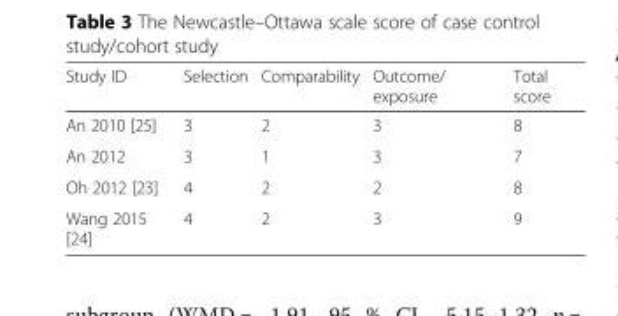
<table><thead><tr><td>Study ID</td><td>Selection</td><td>Comparability</td><td>Outcome/ exposure</td><td>Total score</td></tr></thead><tbody><tr><td>An 2010 [25]</td><td>3</td><td>2</td><td>3</td><td>8</td></tr><tr><td>An 2012</td><td>3</td><td>1</td><td>3</td><td>7</td></tr><tr><td>Oh 2012 [23]</td><td>4</td><td>2</td><td>2</td><td>8</td></tr><tr><td>Wang 2015 [24]</td><td>4</td><td>2</td><td>3</td><td>9</td></tr></tbody></table>